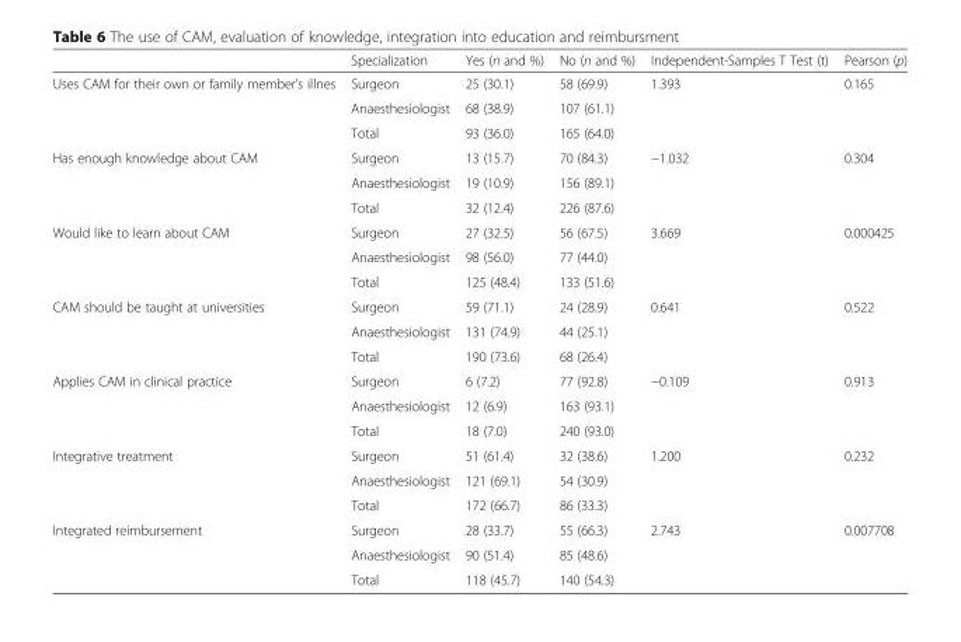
<table><thead><tr><td></td><td>Specialization</td><td>Yes (n and %)</td><td>No (n and %)</td><td>Independent-Samples T Test (t)</td><td>Pearson (p)</td></tr></thead><tbody><tr><td rowspan="3">Uses CAM for their own or family member’s illnes</td><td>Surgeon</td><td>25 (30.1)</td><td>58 (69.9)</td><td rowspan="3">1.393</td><td rowspan="3">0.165</td></tr><tr><td>Anaesthesiologist</td><td>68 (38.9)</td><td>107 (61.1)</td></tr><tr><td>Total</td><td>93 (36.0)</td><td>165 (64.0)</td></tr><tr><td rowspan="3">Has enough knowledge about CAM</td><td>Surgeon</td><td>13 (15.7)</td><td>70 (84.3)</td><td rowspan="3">−1.032</td><td rowspan="3">0.304</td></tr><tr><td>Anaesthesiologist</td><td>19 (10.9)</td><td>156 (89.1)</td></tr><tr><td>Total</td><td>32 (12.4)</td><td>226 (87.6)</td></tr><tr><td rowspan="3">Would like to learn about CAM</td><td>Surgeon</td><td>27 (32.5)</td><td>56 (67.5)</td><td rowspan="3">3.669</td><td rowspan="3">0.000425</td></tr><tr><td>Anaesthesiologist</td><td>98 (56.0)</td><td>77 (44.0)</td></tr><tr><td>Total</td><td>125 (48.4)</td><td>133 (51.6)</td></tr><tr><td rowspan="3">CAM should be taught at universities</td><td>Surgeon</td><td>59 (71.1)</td><td>24 (28.9)</td><td rowspan="3">0.641</td><td rowspan="3">0.522</td></tr><tr><td>Anaesthesiologist</td><td>131 (74.9)</td><td>44 (25.1)</td></tr><tr><td>Total</td><td>190 (73.6)</td><td>68 (26.4)</td></tr><tr><td rowspan="3">Applies CAM in clinical practice</td><td>Surgeon</td><td>6 (7.2)</td><td>77 (92.8)</td><td rowspan="3">−0.109</td><td rowspan="3">0.913</td></tr><tr><td>Anaesthesiologist</td><td>12 (6.9)</td><td>163 (93.1)</td></tr><tr><td>Total</td><td>18 (7.0)</td><td>240 (93.0)</td></tr><tr><td rowspan="3">Integrative treatment</td><td>Surgeon</td><td>51 (61.4)</td><td>32 (38.6)</td><td rowspan="3">1.200</td><td rowspan="3">0.232</td></tr><tr><td>Anaesthesiologist</td><td>121 (69.1)</td><td>54 (30.9)</td></tr><tr><td>Total</td><td>172 (66.7)</td><td>86 (33.3)</td></tr><tr><td rowspan="3">Integrated reimbursement</td><td>Surgeon</td><td>28 (33.7)</td><td>55 (66.3)</td><td rowspan="3">2.743</td><td rowspan="3">0.007708</td></tr><tr><td>Anaesthesiologist</td><td>90 (51.4)</td><td>85 (48.6)</td></tr><tr><td>Total</td><td>118 (45.7)</td><td>140 (54.3)</td></tr></tbody></table>